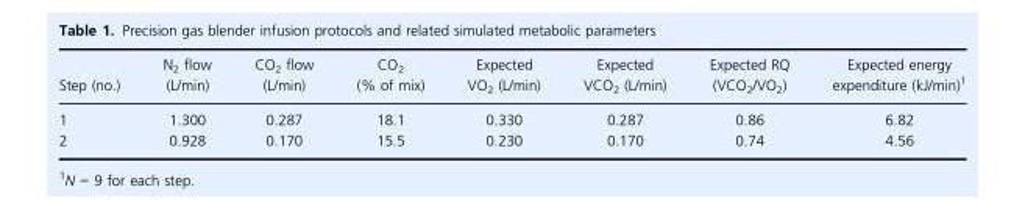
<table><thead><tr><td>Step (no.)</td><td>N<sub>2</sub> flow (L/min)</td><td>CO<sub>2</sub> flow (L/min)</td><td>CO<sub>2</sub> (% of mix)</td><td>Expected VO<sub>2</sub> (L/min)</td><td>Expected VCO<sub>2</sub> (L/min)</td><td>Expected RQ (VCO<sub>2</sub>/VO<sub>2</sub>)</td><td>Expected energy expenditure (kJ/min)1</td></tr></thead><tbody><tr><td>1</td><td>1.300</td><td>0.287</td><td>18.1</td><td>0.330</td><td>0.287</td><td>0.86</td><td>6.82</td></tr><tr><td>2</td><td>0.928</td><td>0.170</td><td>15.5</td><td>0.230</td><td>0.170</td><td>0.74</td><td>4.56</td></tr></tbody></table>